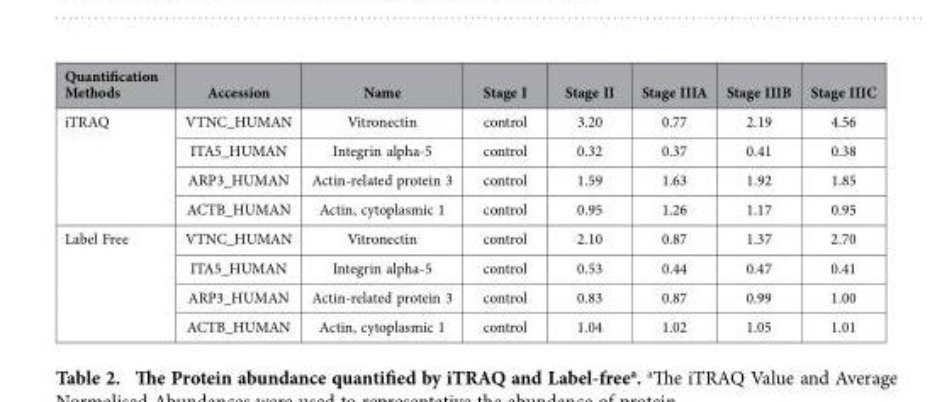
<table><thead><tr><td>Quantification Methods</td><td>Accession</td><td>Name</td><td>Stage I</td><td>Stage II</td><td>Stage IIIA</td><td>Stage IIIB</td><td>Stage IIIC</td></tr></thead><tbody><tr><td rowspan="4">iTRAQ</td><td>VTNC_HUMAN</td><td>Vitronectin</td><td>control</td><td>3.20</td><td>0.77</td><td>2.19</td><td>4.56</td></tr><tr><td>ITA5_HUMAN</td><td>Integrin alpha-5</td><td>control</td><td>0.32</td><td>0.37</td><td>0.41</td><td>0.38</td></tr><tr><td>ARP3_HUMAN</td><td>Actin-related protein 3</td><td>control</td><td>1.59</td><td>1.63</td><td>1.92</td><td>1.85</td></tr><tr><td>ACTB_HUMAN</td><td>Actin, cytoplasmic 1</td><td>control</td><td>0.95</td><td>1.26</td><td>1.17</td><td>0.95</td></tr><tr><td rowspan="4">Label Free</td><td>VTNC_HUMAN</td><td>Vitronectin</td><td>control</td><td>2.10</td><td>0.87</td><td>1.37</td><td>2.70</td></tr><tr><td>ITA5_HUMAN</td><td>Integrin alpha-5</td><td>control</td><td>0.53</td><td>0.44</td><td>0.47</td><td>0.41</td></tr><tr><td>ARP3_HUMAN</td><td>Actin-related protein 3</td><td>control</td><td>0.83</td><td>0.87</td><td>0.99</td><td>1.00</td></tr><tr><td>ACTB_HUMAN</td><td>Actin, cytoplasmic 1</td><td>control</td><td>1.04</td><td>1.02</td><td>1.05</td><td>1.01</td></tr></tbody></table>